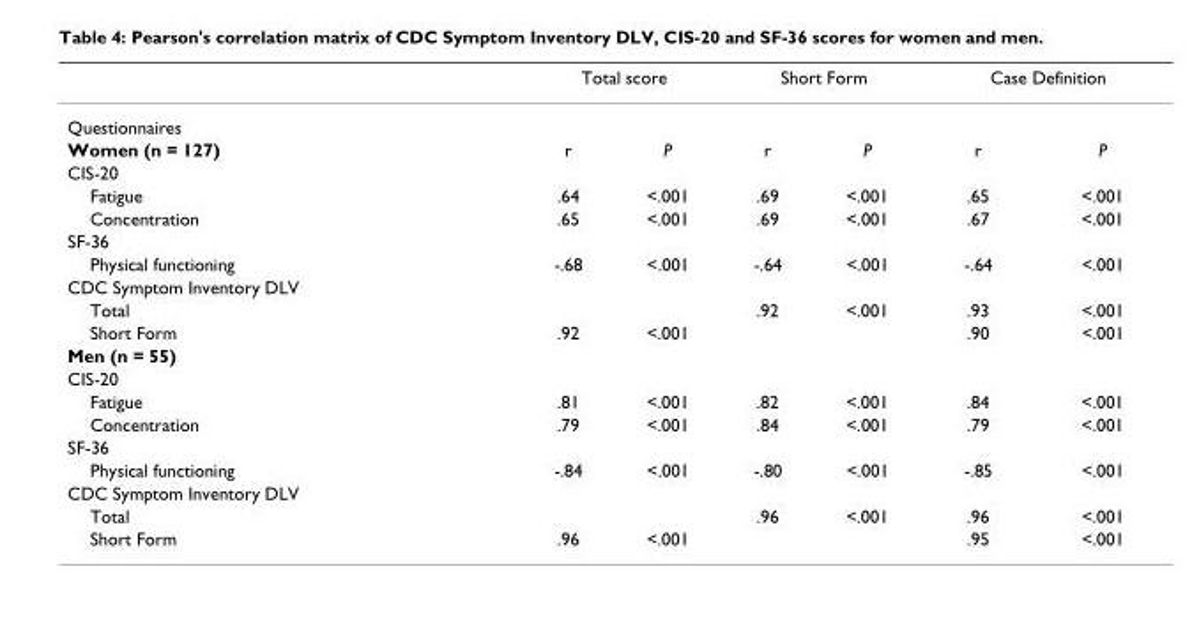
<table><thead><tr><td rowspan="2">Questionnaires</td><td colspan="2">Total score</td><td colspan="2">Short Form</td><td colspan="2">Case Definition</td></tr><tr><td></td><td></td><td></td><td></td><td></td><td></td></tr></thead><tbody><tr><td>Women (n = 127)</td><td>r</td><td>P</td><td>r</td><td>P</td><td>r</td><td>P</td></tr><tr><td colspan="7">CIS-20</td></tr><tr><td>Fatigue</td><td>.64</td><td>&lt;.001</td><td>.69</td><td>&lt;.001</td><td>.65</td><td>&lt;.001</td></tr><tr><td>Concentration</td><td>.65</td><td>&lt;.001</td><td>.69</td><td>&lt;.001</td><td>.67</td><td>&lt;.001</td></tr><tr><td colspan="7">SF-36</td></tr><tr><td>Physical functioning</td><td>-.68</td><td>&lt;.001</td><td>-.64</td><td>&lt;.001</td><td>-.64</td><td>&lt;.001</td></tr><tr><td colspan="7">CDC Symptom Inventory DLV</td></tr><tr><td>Total</td><td></td><td></td><td>.92</td><td>&lt;.001</td><td>.93</td><td>&lt;.001</td></tr><tr><td>Short Form</td><td>.92</td><td>&lt;.001</td><td></td><td></td><td>.90</td><td>&lt;.001</td></tr><tr><td colspan="7">Men (n = 55)</td></tr><tr><td colspan="7">CIS-20</td></tr><tr><td>Fatigue</td><td>.81</td><td>&lt;.001</td><td>.82</td><td>&lt;.001</td><td>.84</td><td>&lt;.001</td></tr><tr><td>Concentration</td><td>.79</td><td>&lt;.001</td><td>.84</td><td>&lt;.001</td><td>.79</td><td>&lt;.001</td></tr><tr><td colspan="7">SF-36</td></tr><tr><td>Physical functioning</td><td>-.84</td><td>&lt;.001</td><td>-.80</td><td>&lt;.001</td><td>-.85</td><td>&lt;.001</td></tr><tr><td colspan="7">CDC Symptom Inventory DLV</td></tr><tr><td>Total</td><td></td><td></td><td>.96</td><td>&lt;.001</td><td>.96</td><td>&lt;.001</td></tr><tr><td>Short Form</td><td>.96</td><td>&lt;.001</td><td></td><td></td><td>.95</td><td>&lt;.001</td></tr></tbody></table>